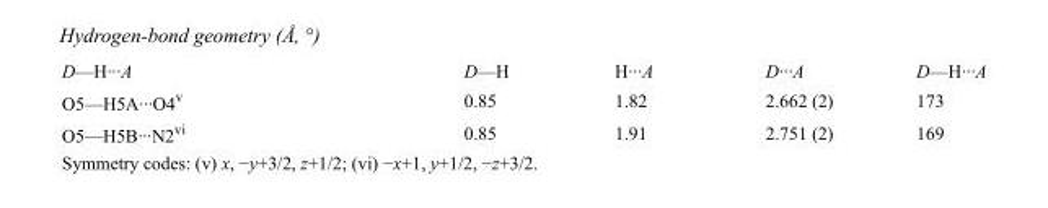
<table><tbody><tr><td>D—H···A</td><td>D—H</td><td>H···A</td><td>D···A</td><td>D—H···A</td></tr><tr><td>O5—H5A···O4<sup>v</sup></td><td>0.85</td><td>1.82</td><td>2.662 (2)</td><td>173</td></tr><tr><td>O5—H5B···N2<sup>vi</sup></td><td>0.85</td><td>1.91</td><td>2.751 (2)</td><td>169</td></tr></tbody></table>